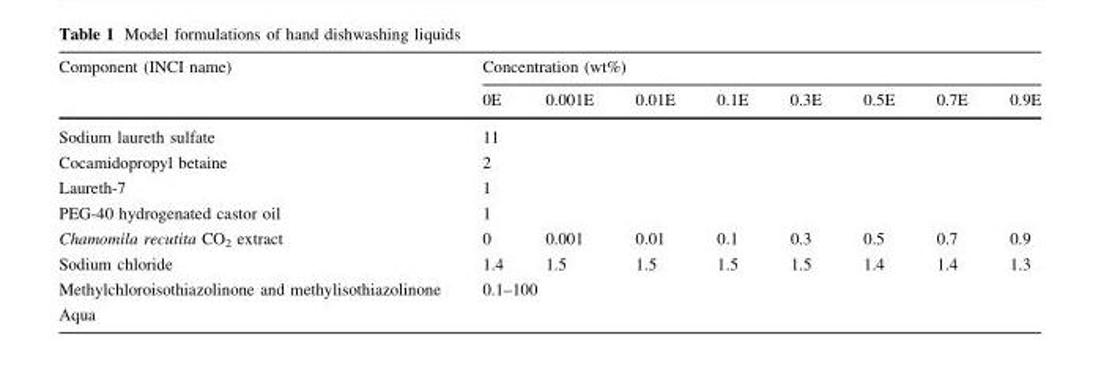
<table><thead><tr><td rowspan="2">Component (INCI name)</td><td colspan="8">Concentration (wt%)</td></tr><tr><td>0E</td><td>0.001E</td><td>0.01E</td><td>0.1E</td><td>0.3E</td><td>0.5E</td><td>0.7E</td><td>0.9E</td></tr></thead><tbody><tr><td>Sodium laureth sulfate</td><td colspan="8">11</td></tr><tr><td>Cocamidopropyl betaine</td><td colspan="8">2</td></tr><tr><td>Laureth-7</td><td colspan="8">1</td></tr><tr><td>PEG-40 hydrogenated castor oil</td><td colspan="8">1</td></tr><tr><td>Chamomila recutita CO<sub>2</sub> extract</td><td>0</td><td>0.001</td><td>0.01</td><td>0.1</td><td>0.3</td><td>0.5</td><td>0.7</td><td>0.9</td></tr><tr><td>Sodium chloride</td><td>1.4</td><td>1.5</td><td>1.5</td><td>1.5</td><td>1.5</td><td>1.4</td><td>1.4</td><td>1.3</td></tr><tr><td>Methylchloroisothiazolinone and methylisothiazolinone</td><td rowspan="2" colspan="8">0.1–100</td></tr><tr><td>Aqua</td></tr></tbody></table>